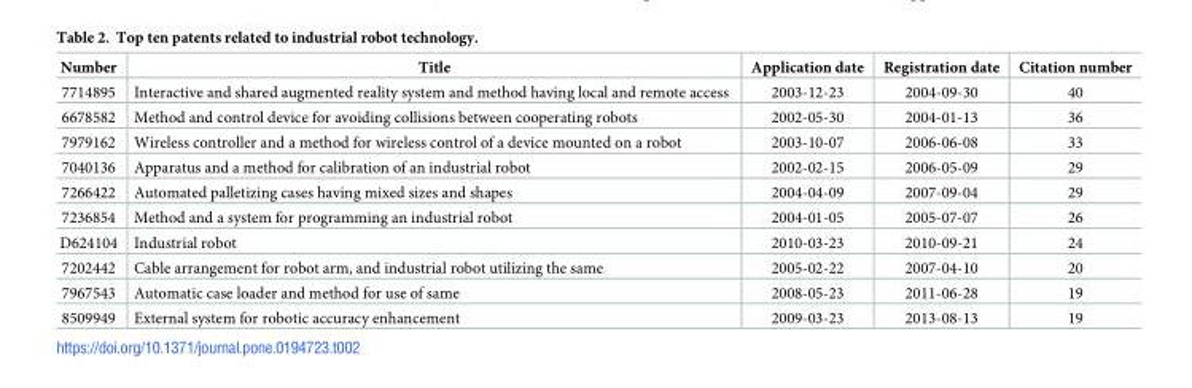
<table><thead><tr><td>Number</td><td>Title</td><td>Application date</td><td>Registration date</td><td>Citation number</td></tr></thead><tbody><tr><td>7714895</td><td>Interactive and shared augmented reality system and method having local and remote access</td><td>2003-12-23</td><td>2004-09-30</td><td>40</td></tr><tr><td>6678582</td><td>Method and control device for avoiding collisions between cooperating robots</td><td>2002-05-30</td><td>2004-01-13</td><td>36</td></tr><tr><td>7979162</td><td>Wireless controller and a method for wireless control of a device mounted on a robot</td><td>2003-10-07</td><td>2006-06-08</td><td>33</td></tr><tr><td>7040136</td><td>Apparatus and a method for calibration of an industrial robot</td><td>2002-02-15</td><td>2006-05-09</td><td>29</td></tr><tr><td>7266422</td><td>Automated palletizing cases having mixed sizes and shapes</td><td>2004-04-09</td><td>2007-09-04</td><td>29</td></tr><tr><td>7236854</td><td>Method and a system for programming an industrial robot</td><td>2004-01-05</td><td>2005-07-07</td><td>26</td></tr><tr><td>D624104</td><td>Industrial robot</td><td>2010-03-23</td><td>2010-09-21</td><td>24</td></tr><tr><td>7202442</td><td>Cable arrangement for robot arm, and industrial robot utilizing the same</td><td>2005-02-22</td><td>2007-04-10</td><td>20</td></tr><tr><td>7967543</td><td>Automatic case loader and method for use of same</td><td>2008-05-23</td><td>2011-06-28</td><td>19</td></tr><tr><td>8509949</td><td>External system for robotic accuracy enhancement</td><td>2009-03-23</td><td>2013-08-13</td><td>19</td></tr></tbody></table>